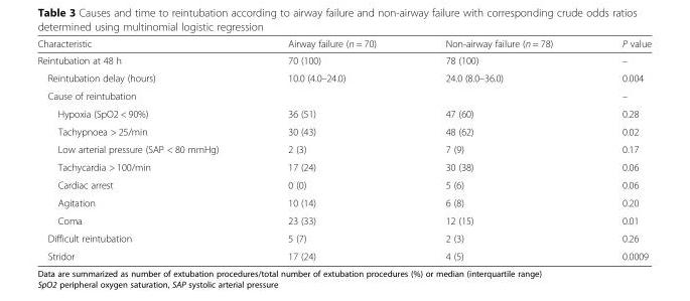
<table><thead><tr><td>Characteristic</td><td>Airway failure (n = 70)</td><td>Non-airway failure (n = 78)</td><td>P value</td></tr></thead><tbody><tr><td>Reintubation at 48 h</td><td>70 (100)</td><td>78 (100)</td><td>–</td></tr><tr><td>Reintubation delay (hours)</td><td>10.0 (4.0–24.0)</td><td>24.0 (8.0–36.0)</td><td>0.004</td></tr><tr><td>Cause of reintubation</td><td></td><td></td><td>–</td></tr><tr><td>Hypoxia (SpO2 &lt; 90%)</td><td>36 (51)</td><td>47 (60)</td><td>0.28</td></tr><tr><td>Tachypnoea &gt; 25/min</td><td>30 (43)</td><td>48 (62)</td><td>0.02</td></tr><tr><td>Low arterial pressure (SAP &lt; 80 mmHg)</td><td>2 (3)</td><td>7 (9)</td><td>0.17</td></tr><tr><td>Tachycardia &gt; 100/min</td><td>17 (24)</td><td>30 (38)</td><td>0.06</td></tr><tr><td>Cardiac arrest</td><td>0 (0)</td><td>5 (6)</td><td>0.06</td></tr><tr><td>Agitation</td><td>10 (14)</td><td>6 (8)</td><td>0.20</td></tr><tr><td>Coma</td><td>23 (33)</td><td>12 (15)</td><td>0.01</td></tr><tr><td>Difficult reintubation</td><td>5 (7)</td><td>2 (3)</td><td>0.26</td></tr><tr><td>Stridor</td><td>17 (24)</td><td>4 (5)</td><td>0.0009</td></tr></tbody></table>